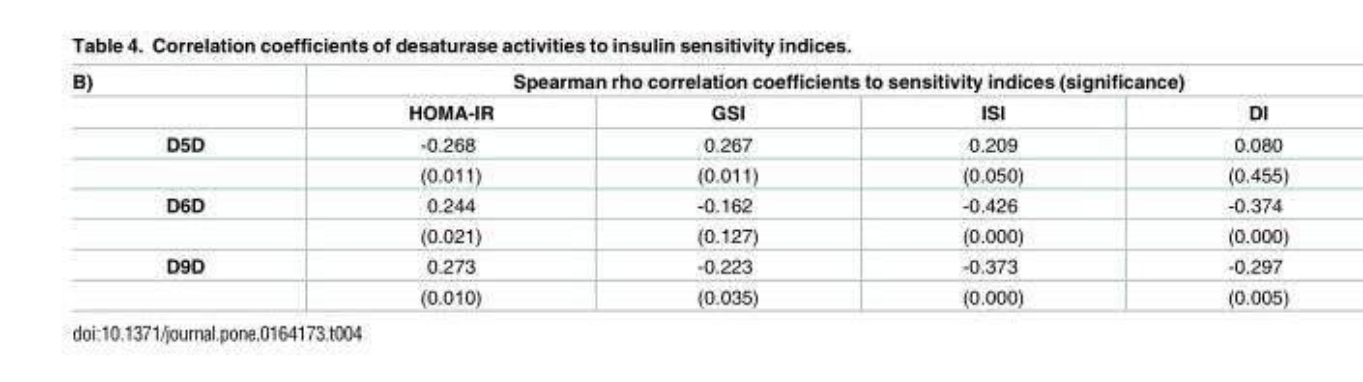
<table><thead><tr><td rowspan="2">B)</td><td colspan="4">Spearman rho correlation coefficients to sensitivity indices (significance)</td></tr><tr><td>HOMA-IR</td><td>GSI</td><td>ISI</td><td>DI</td></tr></thead><tbody><tr><td rowspan="2">D5D</td><td>-0.268</td><td>0.267</td><td>0.209</td><td>0.080</td></tr><tr><td>(0.011)</td><td>(0.011)</td><td>(0.050)</td><td>(0.455)</td></tr><tr><td rowspan="2">D6D</td><td>0.244</td><td>-0.162</td><td>-0.426</td><td>-0.374</td></tr><tr><td>(0.021)</td><td>(0.127)</td><td>(0.000)</td><td>(0.000)</td></tr><tr><td rowspan="2">D9D</td><td>0.273</td><td>-0.223</td><td>-0.373</td><td>-0.297</td></tr><tr><td>(0.010)</td><td>(0.035)</td><td>(0.000)</td><td>(0.005)</td></tr></tbody></table>